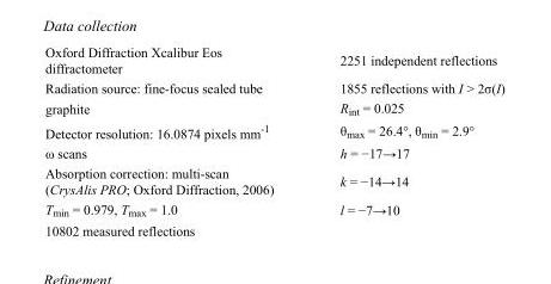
<table><tbody><tr><td>Oxford Diffraction Xcalibur Eos diffractometer</td><td>2251 independent reflections</td></tr><tr><td>Radiation source: fine-focus sealed tube</td><td>1855 reflections with I &gt; 2σ(I)</td></tr><tr><td>graphite</td><td>R<sub>int</sub> = 0.025</td></tr><tr><td>Detector resolution: 16.0874 pixels mm<sup>-1</sup></td><td>θ<sub>max</sub> = 26.4°, θ<sub>min</sub> = 2.9°</td></tr><tr><td>ω scans</td><td>h = −17→17</td></tr><tr><td>Absorption correction: multi-scan (CrysAlis PRO; Oxford Diffraction, 2006)</td><td>k = −14→14</td></tr><tr><td>T<sub>min</sub> = 0.979, T<sub>max</sub> = 1.0</td><td>l = −7→10</td></tr><tr><td>10802 measured reflections</td><td></td></tr></tbody></table>